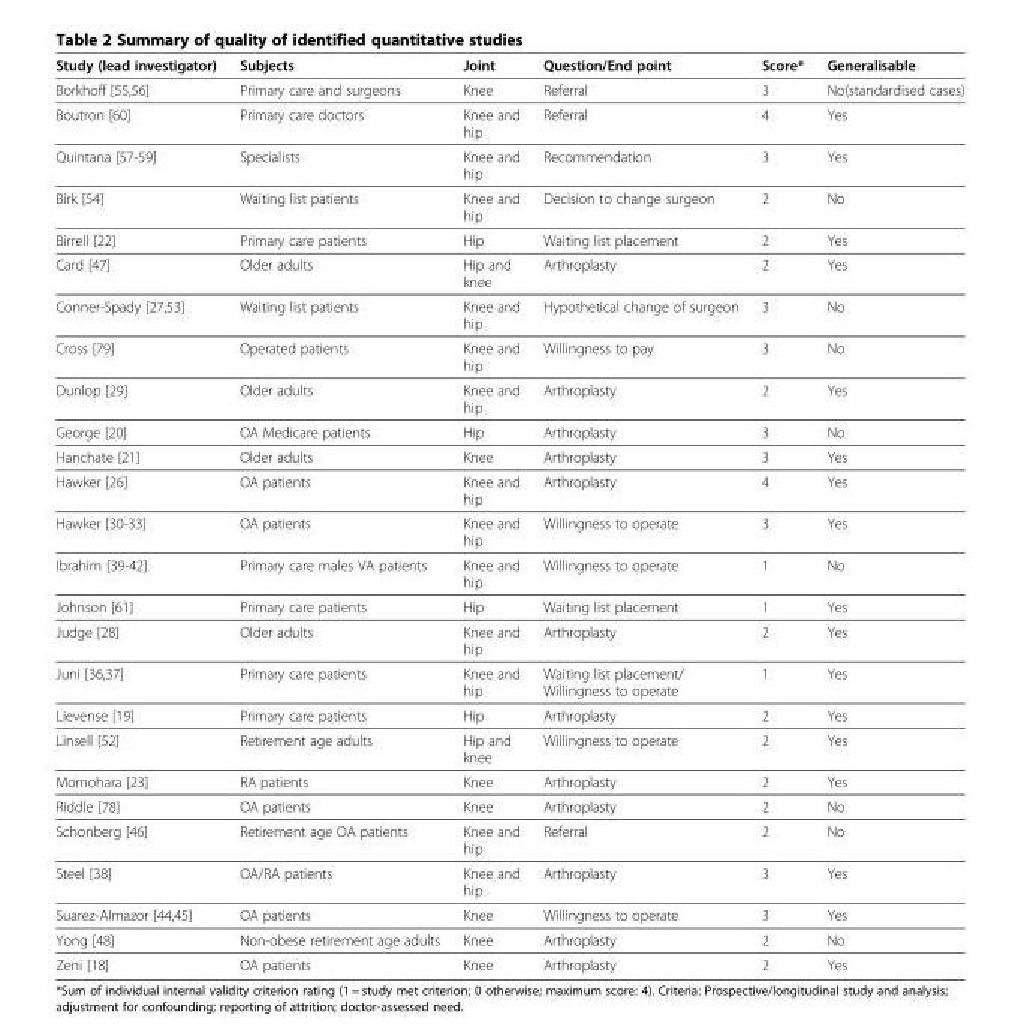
<table><thead><tr><td>Study (lead investigator)</td><td>Subjects</td><td>Joint</td><td>Question/End point</td><td>Score*</td><td>Generalisable</td></tr></thead><tbody><tr><td>Borkhoff [55,56]</td><td>Primary care and surgeons</td><td>Knee</td><td>Referral</td><td>3</td><td>No(standardised cases)</td></tr><tr><td>Boutron [60]</td><td>Primary care doctors</td><td>Knee and hip</td><td>Referral</td><td>4</td><td>Yes</td></tr><tr><td>Quintana [57-59]</td><td>Specialists</td><td>Knee and hip</td><td>Recommendation</td><td>3</td><td>Yes</td></tr><tr><td>Birk [54]</td><td>Waiting list patients</td><td>Knee and hip</td><td>Decision to change surgeon</td><td>2</td><td>No</td></tr><tr><td>Birrell [22]</td><td>Primary care patients</td><td>Hip</td><td>Waiting list placement</td><td>2</td><td>Yes</td></tr><tr><td>Card [47]</td><td>Older adults</td><td>Hip and knee</td><td>Arthroplasty</td><td>2</td><td>Yes</td></tr><tr><td>Conner-Spady [27,53]</td><td>Waiting list patients</td><td>Knee and hip</td><td>Hypothetical change of surgeon</td><td>3</td><td>No</td></tr><tr><td>Cross [79]</td><td>Operated patients</td><td>Knee and hip</td><td>Willingness to pay</td><td>3</td><td>No</td></tr><tr><td>Dunlop [29]</td><td>Older adults</td><td>Knee and hip</td><td>Arthroplasty</td><td>2</td><td>Yes</td></tr><tr><td>George [20]</td><td>OA Medicare patients</td><td>Hip</td><td>Arthroplasty</td><td>3</td><td>No</td></tr><tr><td>Hanchate [21]</td><td>Older adults</td><td>Knee</td><td>Arthroplasty</td><td>3</td><td>Yes</td></tr><tr><td>Hawker [26]</td><td>OA patients</td><td>Knee and hip</td><td>Arthroplasty</td><td>4</td><td>Yes</td></tr><tr><td>Hawker [30-33]</td><td>OA patients</td><td>Knee and hip</td><td>Willingness to operate</td><td>3</td><td>Yes</td></tr><tr><td>Ibrahim [39-42]</td><td>Primary care males VA patients</td><td>Knee and hip</td><td>Willingness to operate</td><td>1</td><td>No</td></tr><tr><td>Johnson [61]</td><td>Primary care patients</td><td>Hip</td><td>Waiting list placement</td><td>1</td><td>Yes</td></tr><tr><td>Judge [28]</td><td>Older adults</td><td>Knee and hip</td><td>Arthroplasty</td><td>2</td><td>Yes</td></tr><tr><td>Juni [36,37]</td><td>Primary care patients</td><td>Knee and hip</td><td>Waiting list placement/ Willingness to operate</td><td>1</td><td>Yes</td></tr><tr><td>Lievense [19]</td><td>Primary care patients</td><td>Hip</td><td>Arthroplasty</td><td>2</td><td>Yes</td></tr><tr><td>Linsell [52]</td><td>Retirement age adults</td><td>Hip and knee</td><td>Willingness to operate</td><td>2</td><td>Yes</td></tr><tr><td>Momohara [23]</td><td>RA patients</td><td>Knee</td><td>Arthroplasty</td><td>2</td><td>Yes</td></tr><tr><td>Riddle [78]</td><td>OA patients</td><td>Knee</td><td>Arthroplasty</td><td>2</td><td>No</td></tr><tr><td>Schonberg [46]</td><td>Retirement age OA patients</td><td>Knee and hip</td><td>Referral</td><td>2</td><td>No</td></tr><tr><td>Steel [38]</td><td>OA/RA patients</td><td>Knee and hip</td><td>Arthroplasty</td><td>3</td><td>Yes</td></tr><tr><td>Suarez-Almazor [44,45]</td><td>OA patients</td><td>Knee</td><td>Willingness to operate</td><td>3</td><td>Yes</td></tr><tr><td>Yong [48]</td><td>Non-obese retirement age adults</td><td>Knee</td><td>Arthroplasty</td><td>2</td><td>No</td></tr><tr><td>Zeni [18]</td><td>OA patients</td><td>Knee</td><td>Arthroplasty</td><td>2</td><td>Yes</td></tr></tbody></table>